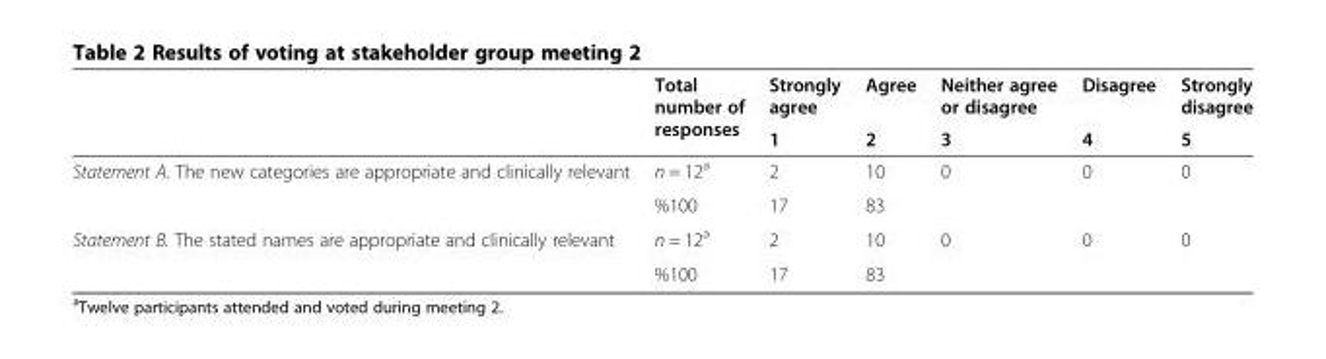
<table><thead><tr><td rowspan="2"></td><td rowspan="2">Total number of responses</td><td rowspan="2">Strongly agree 1</td><td rowspan="2">Agree 2</td><td rowspan="2">Neither agree or disagree 3</td><td rowspan="2">Disagree 4</td><td rowspan="2">Strongly disagree 5</td></tr><tr></tr></thead><tbody><tr><td rowspan="2">Statement A. The new categories are appropriate and clinically relevant</td><td>n = 12<sup>a</sup></td><td>2</td><td>10</td><td>0</td><td>0</td><td>0</td></tr><tr><td>%100</td><td>17</td><td>83</td><td></td><td></td><td></td></tr><tr><td rowspan="2">Statement B. The stated names are appropriate and clinically relevant</td><td>n = 12<sup>a</sup></td><td>2</td><td>10</td><td>0</td><td>0</td><td>0</td></tr><tr><td>%100</td><td>17</td><td>83</td><td></td><td></td><td></td></tr></tbody></table>